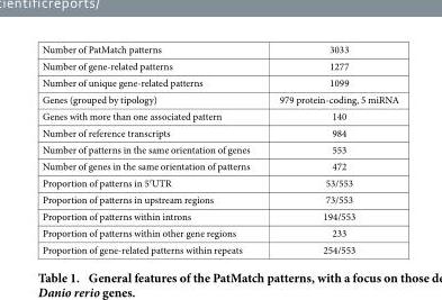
<table><tbody><tr><td>Number of PatMatch patterns</td><td>3033</td></tr><tr><td>Number of gene-related patterns</td><td>1277</td></tr><tr><td>Number of unique gene-related patterns</td><td>1099</td></tr><tr><td>Genes (grouped by tipology)</td><td>979 protein-coding, 5 miRNA</td></tr><tr><td>Genes with more than one associated pattern</td><td>140</td></tr><tr><td>Number of reference transcripts</td><td>984</td></tr><tr><td>Number of patterns in the same orientation of genes</td><td>553</td></tr><tr><td>Number of genes in the same orientation of patterns</td><td>472</td></tr><tr><td>Proportion of patterns in 5′ UTR</td><td>53/553</td></tr><tr><td>Proportion of patterns in upstream regions</td><td>73/553</td></tr><tr><td>Proportion of patterns within introns</td><td>194/553</td></tr><tr><td>Proportion of patterns within other gene regions</td><td>233</td></tr><tr><td>Proportion of gene-related patterns within repeats</td><td>254/553</td></tr></tbody></table>